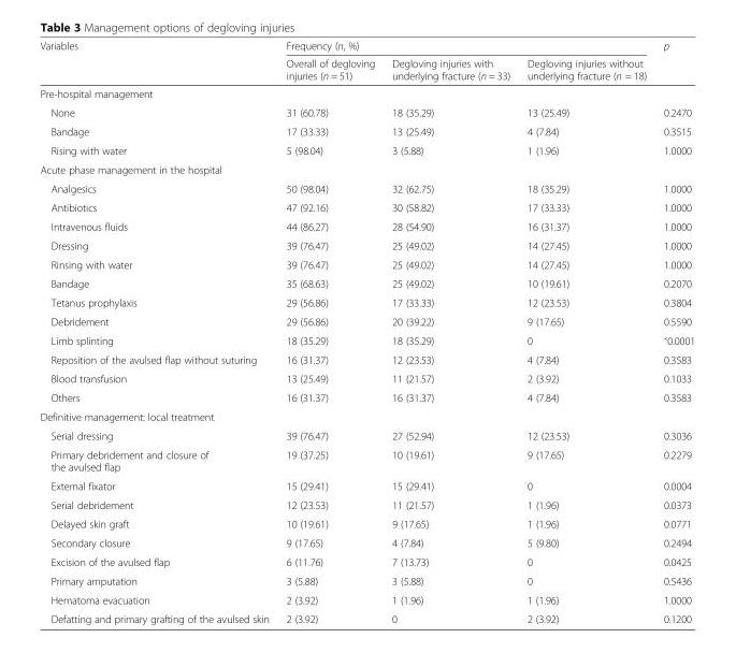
<table><thead><tr><td rowspan="2">Variables</td><td colspan="3">Frequency (n, %)</td><td rowspan="2">p</td></tr><tr><td>Overall of degloving injuries (n = 51)</td><td>Degloving injuries with underlying fracture (n = 33)</td><td>Degloving injuries without underlying fracture (n = 18)</td></tr></thead><tbody><tr><td colspan="5">Pre-hospital management</td></tr><tr><td>None</td><td>31 (60.78)</td><td>18 (35.29)</td><td>13 (25.49)</td><td>0.2470</td></tr><tr><td>Bandage</td><td>17 (33.33)</td><td>13 (25.49)</td><td>4 (7.84)</td><td>0.3515</td></tr><tr><td>Rising with water</td><td>5 (98.04)</td><td>3 (5.88)</td><td>1 (1.96)</td><td>1.0000</td></tr><tr><td colspan="5">Acute phase management in the hospital</td></tr><tr><td>Analgesics</td><td>50 (98.04)</td><td>32 (62.75)</td><td>18 (35.29)</td><td>1.0000</td></tr><tr><td>Antibiotics</td><td>47 (92.16)</td><td>30 (58.82)</td><td>17 (33.33)</td><td>1.0000</td></tr><tr><td>Intravenous fluids</td><td>44 (86.27)</td><td>28 (54.90)</td><td>16 (31.37)</td><td>1.0000</td></tr><tr><td>Dressing</td><td>39 (76.47)</td><td>25 (49.02)</td><td>14 (27.45)</td><td>1.0000</td></tr><tr><td>Rinsing with water</td><td>39 (76.47)</td><td>25 (49.02)</td><td>14 (27.45)</td><td>1.0000</td></tr><tr><td>Bandage</td><td>35 (68.63)</td><td>25 (49.02)</td><td>10 (19.61)</td><td>0.2070</td></tr><tr><td>Tetanus prophylaxis</td><td>29 (56.86)</td><td>17 (33.33)</td><td>12 (23.53)</td><td>0.3804</td></tr><tr><td>Debridement</td><td>29 (56.86)</td><td>20 (39.22)</td><td>9 (17.65)</td><td>0.5590</td></tr><tr><td>Limb splinting</td><td>18 (35.29)</td><td>18 (35.29)</td><td>0</td><td>˂0.0001</td></tr><tr><td>Reposition of the avulsed flap without suturing</td><td>16 (31.37)</td><td>12 (23.53)</td><td>4 (7.84)</td><td>0.3583</td></tr><tr><td>Blood transfusion</td><td>13 (25.49)</td><td>11 (21.57)</td><td>2 (3.92)</td><td>0.1033</td></tr><tr><td>Others</td><td>16 (31.37)</td><td>16 (31.37)</td><td>4 (7.84)</td><td>0.3583</td></tr><tr><td colspan="5">Definitive management: local treatment</td></tr><tr><td>Serial dressing</td><td>39 (76.47)</td><td>27 (52.94)</td><td>12 (23.53)</td><td>0.3036</td></tr><tr><td>Primary debridement and closure of the avulsed flap</td><td>19 (37.25)</td><td>10 (19.61)</td><td>9 (17.65)</td><td>0.2279</td></tr><tr><td>External fixator</td><td>15 (29.41)</td><td>15 (29.41)</td><td>0</td><td>0.0004</td></tr><tr><td>Serial debridement</td><td>12 (23.53)</td><td>11 (21.57)</td><td>1 (1.96)</td><td>0.0373</td></tr><tr><td>Delayed skin graft</td><td>10 (19.61)</td><td>9 (17.65)</td><td>1 (1.96)</td><td>0.0771</td></tr><tr><td>Secondary closure</td><td>9 (17.65)</td><td>4 (7.84)</td><td>5 (9.80)</td><td>0.2494</td></tr><tr><td>Excision of the avulsed flap</td><td>6 (11.76)</td><td>7 (13.73)</td><td>0</td><td>0.0425</td></tr><tr><td>Primary amputation</td><td>3 (5.88)</td><td>3 (5.88)</td><td>0</td><td>0.5436</td></tr><tr><td>Hematoma evacuation</td><td>2 (3.92)</td><td>1 (1.96)</td><td>1 (1.96)</td><td>1.0000</td></tr><tr><td>Defatting and primary grafting of the avulsed skin</td><td>2 (3.92)</td><td>0</td><td>2 (3.92)</td><td>0.1200</td></tr></tbody></table>